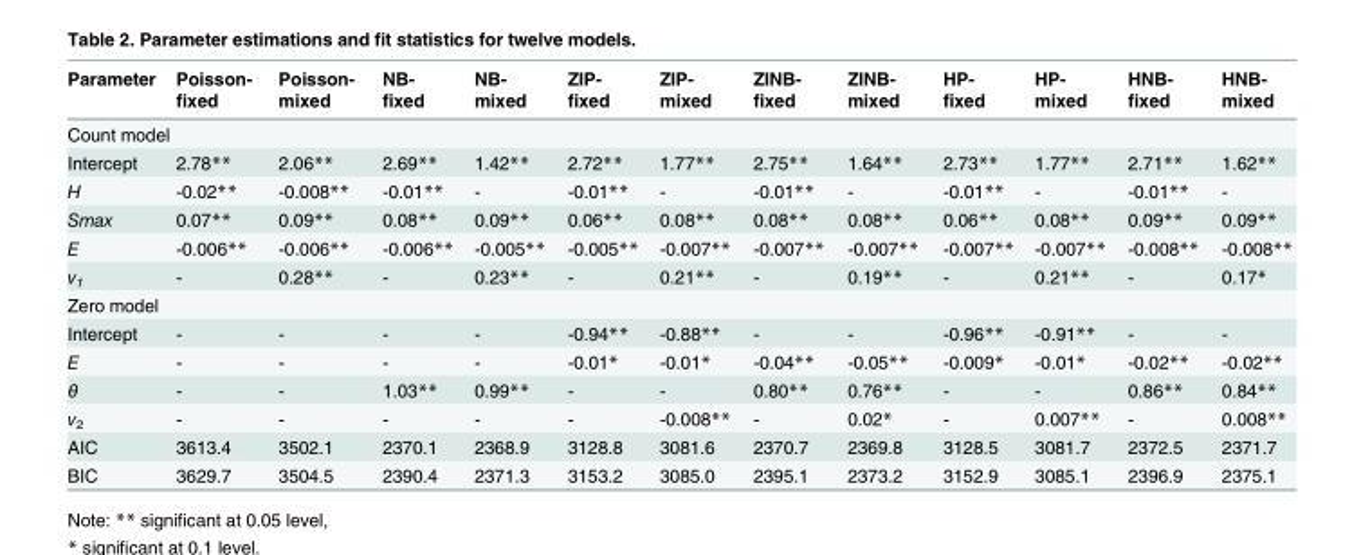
<table><thead><tr><td>Parameter</td><td>Poisson- fixed</td><td>Poisson- mixed</td><td>NB- fixed</td><td>NB- mixed</td><td>ZIP- fixed</td><td>ZIP- mixed</td><td>ZINB- fixed</td><td>ZINB- mixed</td><td>HP- fixed</td><td>HP- mixed</td><td>HNB- fixed</td><td>HNB- mixed</td></tr></thead><tbody><tr><td colspan="13">Count model</td></tr><tr><td>Intercept</td><td>2.78**</td><td>2.06**</td><td>2.69**</td><td>1.42**</td><td>2.72**</td><td>1.77**</td><td>2.75**</td><td>1.64**</td><td>2.73**</td><td>1.77**</td><td>2.71**</td><td>1.62**</td></tr><tr><td>H</td><td>-0.02**</td><td>-0.008**</td><td>-0.01**</td><td>-</td><td>-0.01**</td><td>-</td><td>-0.01**</td><td>-</td><td>-0.01**</td><td>-</td><td>-0.01**</td><td>-</td></tr><tr><td>Smax</td><td>0.07**</td><td>0.09**</td><td>0.08**</td><td>0.09**</td><td>0.06**</td><td>0.08**</td><td>0.08**</td><td>0.08**</td><td>0.06**</td><td>0.08**</td><td>0.09**</td><td>0.09**</td></tr><tr><td>E</td><td>-0.006**</td><td>-0.006**</td><td>-0.006**</td><td>-0.005**</td><td>-0.005**</td><td>-0.007**</td><td>-0.007**</td><td>-0.007**</td><td>-0.007**</td><td>-0.007**</td><td>-0.008**</td><td>-0.008**</td></tr><tr><td>v<sub>1</sub></td><td>-</td><td>0.28**</td><td>-</td><td>0.23**</td><td>-</td><td>0.21**</td><td>-</td><td>0.19**</td><td>-</td><td>0.21**</td><td>-</td><td>0.17*</td></tr><tr><td colspan="13">Zero model</td></tr><tr><td>Intercept</td><td>-</td><td>-</td><td>-</td><td>-</td><td>-0.94**</td><td>-0.88**</td><td>-</td><td>-</td><td>-0.96**</td><td>-0.91**</td><td>-</td><td>-</td></tr><tr><td>E</td><td>-</td><td>-</td><td>-</td><td>-</td><td>-0.01*</td><td>-0.01*</td><td>-0.04**</td><td>-0.05**</td><td>-0.009*</td><td>-0.01*</td><td>-0.02**</td><td>-0.02**</td></tr><tr><td>θ</td><td>-</td><td>-</td><td>1.03**</td><td>0.99**</td><td>-</td><td>-</td><td>0.80**</td><td>0.76**</td><td>-</td><td>-</td><td>0.86**</td><td>0.84**</td></tr><tr><td>v<sub>2</sub></td><td>-</td><td>-</td><td>-</td><td>-</td><td>-</td><td>-0.008**</td><td>-</td><td>0.02*</td><td>-</td><td>0.007**</td><td>-</td><td>0.008**</td></tr><tr><td>AIC</td><td>3613.4</td><td>3502.1</td><td>2370.1</td><td>2368.9</td><td>3128.8</td><td>3081.6</td><td>2370.7</td><td>2369.8</td><td>3128.5</td><td>3081.7</td><td>2372.5</td><td>2371.7</td></tr><tr><td>BIC</td><td>3629.7</td><td>3504.5</td><td>2390.4</td><td>2371.3</td><td>3153.2</td><td>3085.0</td><td>2395.1</td><td>2373.2</td><td>3152.9</td><td>3085.1</td><td>2396.9</td><td>2375.1</td></tr></tbody></table>